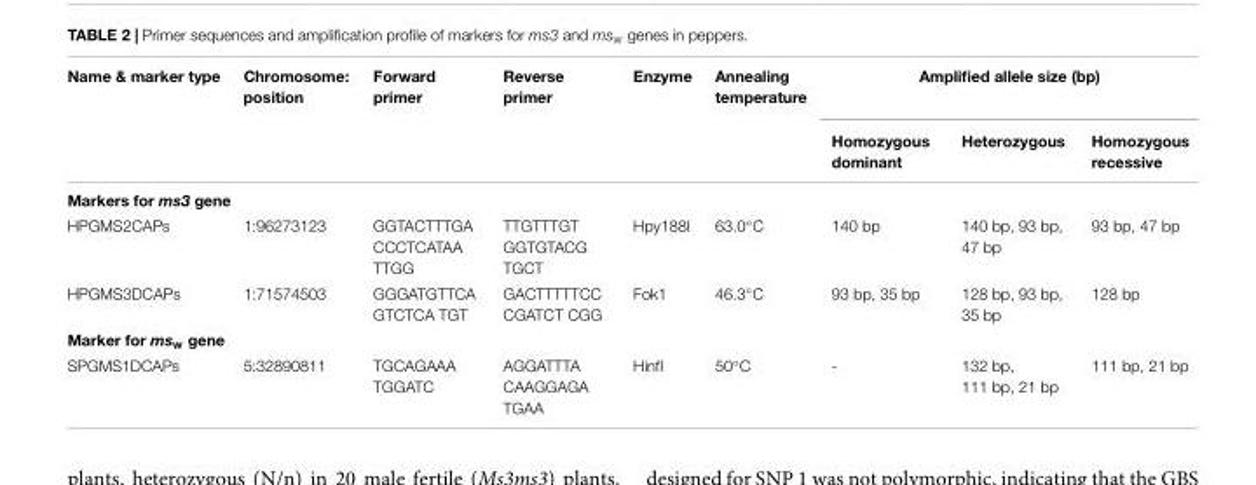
<table><thead><tr><td rowspan="2">Name &amp; marker type</td><td rowspan="2">Chromosome: position</td><td rowspan="2">Forward primer</td><td rowspan="2">Reverse primer</td><td rowspan="2">Enzyme</td><td rowspan="2">Annealing temperature</td><td colspan="3">Amplified allele size (bp)</td></tr><tr><td>Homozygous dominant</td><td>Heterozygous</td><td>Homozygous recessive</td></tr></thead><tbody><tr><td colspan="9">Markers for ms3 gene</td></tr><tr><td>HPGMS2CAPs</td><td>1:96273123</td><td>GGTACTTTGA CCCTCATAA TTGG</td><td>TTGTTTGT GGTGTACG TGCT</td><td>Hpy188I</td><td>63.0◦C</td><td>140 bp</td><td>140 bp, 93 bp, 47 bp</td><td>93 bp, 47 bp</td></tr><tr><td>HPGMS3DCAPs</td><td>1:71574503</td><td>GGGATGTTCA GTCTCA TGT</td><td>GACTTTTTCC CGATCT CGG</td><td>Fok1</td><td>46.3◦C</td><td>93 bp, 35 bp</td><td>128 bp, 93 bp, 35 bp</td><td>128 bp</td></tr><tr><td colspan="9">Marker for ms<sub>w</sub> gene</td></tr><tr><td>SPGMS1DCAPs</td><td>5:32890811</td><td>TGCAGAAA TGGATC</td><td>AGGATTTA CAAGGAGA TGAA</td><td>HinfI</td><td>50◦C</td><td>-</td><td>132 bp, 111 bp, 21 bp</td><td>111 bp, 21 bp</td></tr></tbody></table>